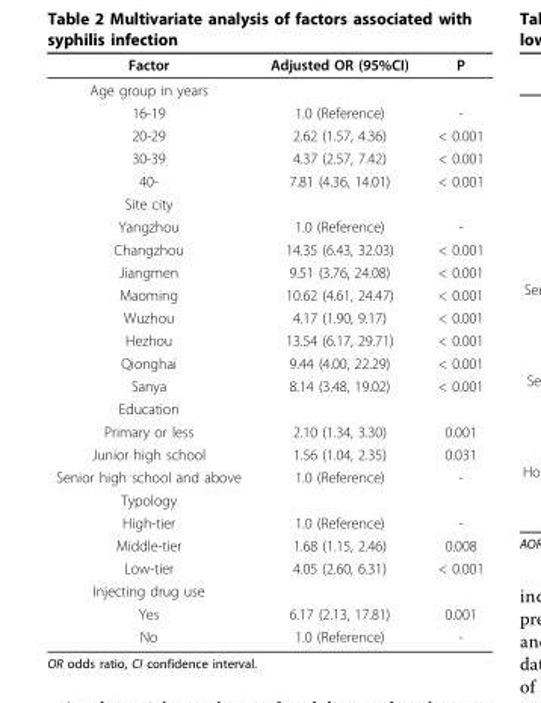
<table><thead><tr><td>Factor</td><td>Adjusted OR (95%CI)</td><td>P</td></tr></thead><tbody><tr><td colspan="3">Age group in years</td></tr><tr><td>16-19</td><td>1.0 (Reference)</td><td>-</td></tr><tr><td>20-29</td><td>2.62 (1.57, 4.36)</td><td>&lt; 0.001</td></tr><tr><td>30-39</td><td>4.37 (2.57, 7.42)</td><td>&lt; 0.001</td></tr><tr><td>40-</td><td>7.81 (4.36, 14.01)</td><td>&lt; 0.001</td></tr><tr><td colspan="3">Site city</td></tr><tr><td>Yangzhou</td><td>1.0 (Reference)</td><td>-</td></tr><tr><td>Changzhou</td><td>14.35 (6.43, 32.03)</td><td>&lt; 0.001</td></tr><tr><td>Jiangmen</td><td>9.51 (3.76, 24.08)</td><td>&lt; 0.001</td></tr><tr><td>Maoming</td><td>10.62 (4.61, 24.47)</td><td>&lt; 0.001</td></tr><tr><td>Wuzhou</td><td>4.17 (1.90, 9.17)</td><td>&lt; 0.001</td></tr><tr><td>Hezhou</td><td>13.54 (6.17, 29.71)</td><td>&lt; 0.001</td></tr><tr><td>Qionghai</td><td>9.44 (4.00, 22.29)</td><td>&lt; 0.001</td></tr><tr><td>Sanya</td><td>8.14 (3.48, 19.02)</td><td>&lt; 0.001</td></tr><tr><td colspan="3">Education</td></tr><tr><td>Primary or less</td><td>2.10 (1.34, 3.30)</td><td>0.001</td></tr><tr><td>Junior high school</td><td>1.56 (1.04, 2.35)</td><td>0.031</td></tr><tr><td>Senior high school and above</td><td>1.0 (Reference)</td><td>-</td></tr><tr><td colspan="3">Typology</td></tr><tr><td>High-tier</td><td>1.0 (Reference)</td><td>-</td></tr><tr><td>Middle-tier</td><td>1.68 (1.15, 2.46)</td><td>0.008</td></tr><tr><td>Low-tier</td><td>4.05 (2.60, 6.31)</td><td>&lt; 0.001</td></tr><tr><td colspan="3">Injecting drug use</td></tr><tr><td>Yes</td><td>6.17 (2.13, 17.81)</td><td>0.001</td></tr><tr><td>No</td><td>1.0 (Reference)</td><td>-</td></tr></tbody></table>